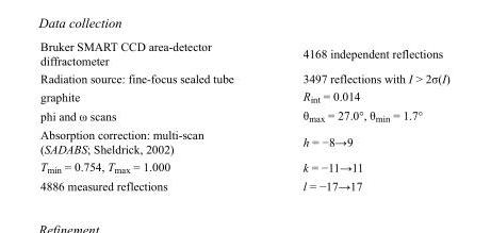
<table><tbody><tr><td>Bruker SMART CCD area-detector diffractometer</td><td>4168 independent reflections</td></tr><tr><td>Radiation source: fine-focus sealed tube</td><td>3497 reflections with I &gt; 2σ(I)</td></tr><tr><td>graphite</td><td>R<sub>int</sub> = 0.014</td></tr><tr><td>phi and ω scans</td><td>θ<sub>max</sub> = 27.0°, θ<sub>min</sub> = 1.7°</td></tr><tr><td>Absorption correction: multi-scan (SADABS; Sheldrick, 2002)</td><td>h = −8→9</td></tr><tr><td>T<sub>min</sub> = 0.754, T<sub>max</sub> = 1.000</td><td>k = −11→11</td></tr><tr><td>4886 measured reflections</td><td>l = −17→17</td></tr></tbody></table>